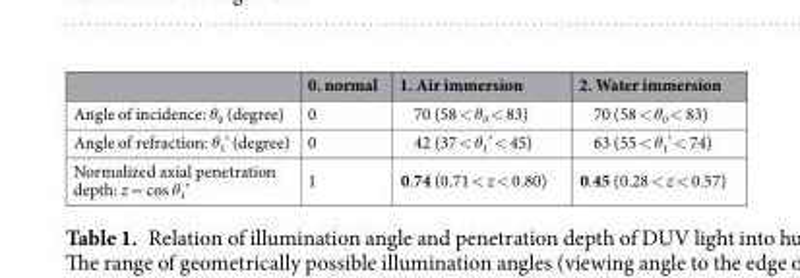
<table><thead><tr><td></td><td>0. normal</td><td>1. Air immersion</td><td>2. Water immersion</td></tr></thead><tbody><tr><td>Angle of incidence: θ<sub>0</sub> (degree)</td><td>0</td><td>70 (58 &lt; θ<sub>0</sub> &lt; 83)</td><td>70 (58 &lt; θ<sub>0</sub> &lt; 83)</td></tr><tr><td>Angle of refraction: θ<sub>1</sub>’ (degree)</td><td>0</td><td>42 (37 &lt; θ<sub>1</sub>’ &lt; 45)</td><td>63 (55 &lt; θ<sub>1</sub>’ &lt; 74)</td></tr><tr><td>Normalized axial penetration depth: z = cos θ<sub>1</sub>’</td><td>1</td><td>0.74 (0.71 &lt; z &lt; 0.80)</td><td>0.45 (0.28 &lt; z &lt; 0.57)</td></tr></tbody></table>